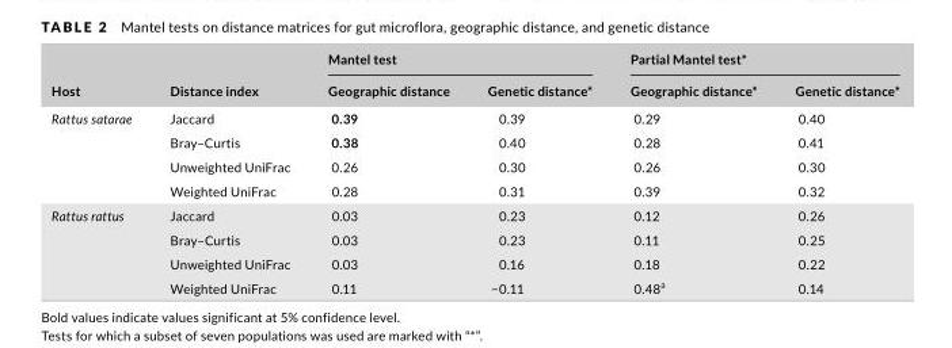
<table><thead><tr><td rowspan="2">Host</td><td rowspan="2">Distance index</td><td colspan="2">Mantel test</td><td colspan="2">Partial Mantel test*</td></tr><tr><td>Geographic distance</td><td>Genetic distance*</td><td>Geographic distance*</td><td>Genetic distance*</td></tr></thead><tbody><tr><td rowspan="4">Rattus satarae</td><td>Jaccard</td><td>0.39</td><td>0.39</td><td>0.29</td><td>0.40</td></tr><tr><td>Bray–Curtis</td><td>0.38</td><td>0.40</td><td>0.28</td><td>0.41</td></tr><tr><td>Unweighted UniFrac</td><td>0.26</td><td>0.30</td><td>0.26</td><td>0.30</td></tr><tr><td>Weighted UniFrac</td><td>0.28</td><td>0.31</td><td>0.39</td><td>0.32</td></tr><tr><td rowspan="4">Rattus rattus</td><td>Jaccard</td><td>0.03</td><td>0.23</td><td>0.12</td><td>0.26</td></tr><tr><td>Bray–Curtis</td><td>0.03</td><td>0.23</td><td>0.11</td><td>0.25</td></tr><tr><td>Unweighted UniFrac</td><td>0.03</td><td>0.16</td><td>0.18</td><td>0.22</td></tr><tr><td>Weighted UniFrac</td><td>0.11</td><td>−0.11</td><td>0.48<sup>a</sup></td><td>0.14</td></tr></tbody></table>